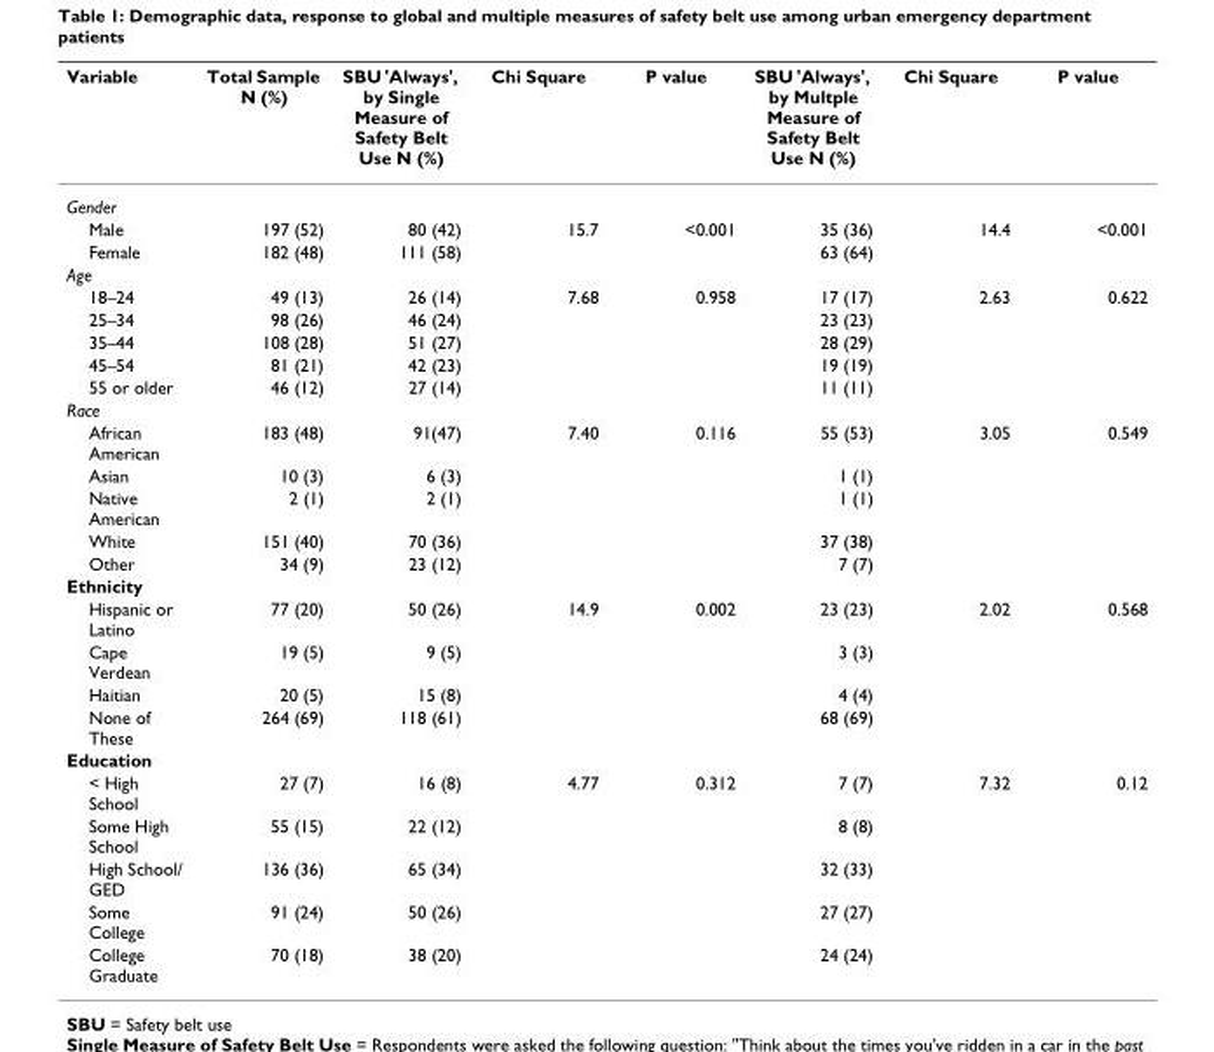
<table><thead><tr><td>Variable</td><td>Total Sample N (%)</td><td>SBU &#x27;Always&#x27;, by Single Measure of Safety Belt Use N (%)</td><td>Chi Square</td><td>P value</td><td>SBU &#x27;Always&#x27;, by Multple Measure of Safety Belt Use N (%)</td><td>Chi Square</td><td>P value</td></tr></thead><tbody><tr><td colspan="8">Gender</td></tr><tr><td>Male</td><td>197 (52)</td><td>80 (42)</td><td>15.7</td><td>&lt;0.001</td><td>35 (36)</td><td>14.4</td><td>&lt;0.001</td></tr><tr><td>Female</td><td>182 (48)</td><td>111 (58)</td><td></td><td></td><td>63 (64)</td><td></td><td></td></tr><tr><td colspan="8">Age</td></tr><tr><td>18–24</td><td>49 (13)</td><td>26 (14)</td><td>7.68</td><td>0.958</td><td>17 (17)</td><td>2.63</td><td>0.622</td></tr><tr><td>25–34</td><td>98 (26)</td><td>46 (24)</td><td></td><td></td><td>23 (23)</td><td></td><td></td></tr><tr><td>35–44</td><td>108 (28)</td><td>51 (27)</td><td></td><td></td><td>28 (29)</td><td></td><td></td></tr><tr><td>45–54</td><td>81 (21)</td><td>42 (23)</td><td></td><td></td><td>19 (19)</td><td></td><td></td></tr><tr><td>55 or older</td><td>46 (12)</td><td>27 (14)</td><td></td><td></td><td>11 (11)</td><td></td><td></td></tr><tr><td colspan="8">Race</td></tr><tr><td>African American</td><td>183 (48)</td><td>91(47)</td><td>7.40</td><td>0.116</td><td>55 (53)</td><td>3.05</td><td>0.549</td></tr><tr><td>Asian</td><td>10 (3)</td><td>6 (3)</td><td></td><td></td><td>1 (1)</td><td></td><td></td></tr><tr><td>Native American</td><td>2 (1)</td><td>2 (1)</td><td></td><td></td><td>1 (1)</td><td></td><td></td></tr><tr><td>White</td><td>151 (40)</td><td>70 (36)</td><td></td><td></td><td>37 (38)</td><td></td><td></td></tr><tr><td>Other</td><td>34 (9)</td><td>23 (12)</td><td></td><td></td><td>7 (7)</td><td></td><td></td></tr><tr><td colspan="8">Ethnicity</td></tr><tr><td>Hispanic or Latino</td><td>77 (20)</td><td>50 (26)</td><td>14.9</td><td>0.002</td><td>23 (23)</td><td>2.02</td><td>0.568</td></tr><tr><td>Cape Verdean</td><td>19 (5)</td><td>9 (5)</td><td></td><td></td><td>3 (3)</td><td></td><td></td></tr><tr><td>Haitian</td><td>20 (5)</td><td>15 (8)</td><td></td><td></td><td>4 (4)</td><td></td><td></td></tr><tr><td>None of These</td><td>264 (69)</td><td>118 (61)</td><td></td><td></td><td>68 (69)</td><td></td><td></td></tr><tr><td colspan="8">Education</td></tr><tr><td>&lt; High School</td><td>27 (7)</td><td>16 (8)</td><td>4.77</td><td>0.312</td><td>7 (7)</td><td>7.32</td><td>0.12</td></tr><tr><td>Some High School</td><td>55 (15)</td><td>22 (12)</td><td></td><td></td><td>8 (8)</td><td></td><td></td></tr><tr><td>High School/ GED</td><td>136 (36)</td><td>65 (34)</td><td></td><td></td><td>32 (33)</td><td></td><td></td></tr><tr><td>Some College</td><td>91 (24)</td><td>50 (26)</td><td></td><td></td><td>27 (27)</td><td></td><td></td></tr><tr><td>College Graduate</td><td>70 (18)</td><td>38 (20)</td><td></td><td></td><td>24 (24)</td><td></td><td></td></tr></tbody></table>